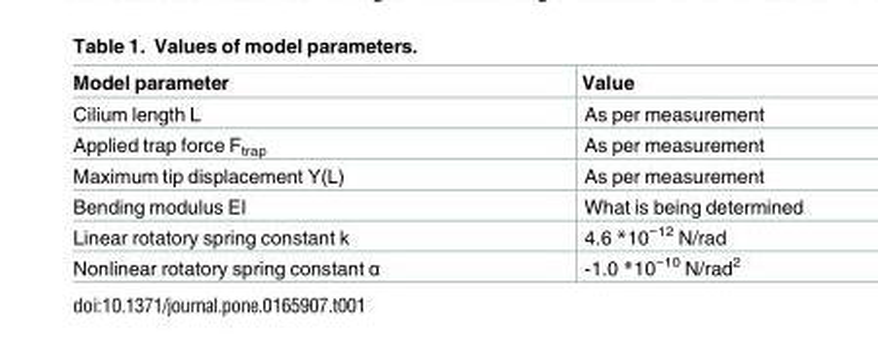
<table><thead><tr><td>Model parameter</td><td>Value</td></tr></thead><tbody><tr><td>Cilium length L</td><td>As per measurement</td></tr><tr><td>Applied trap force F<sub>trap</sub></td><td>As per measurement</td></tr><tr><td>Maximum tip displacement Y(L)</td><td>As per measurement</td></tr><tr><td>Bending modulus EI</td><td>What is being determined</td></tr><tr><td>Linear rotatory spring constant k</td><td>4.6 *10<sup>−12</sup> N/rad</td></tr><tr><td>Nonlinear rotatory spring constant α</td><td>-1.0 *10<sup>−10</sup> N/rad<sup>2</sup></td></tr></tbody></table>